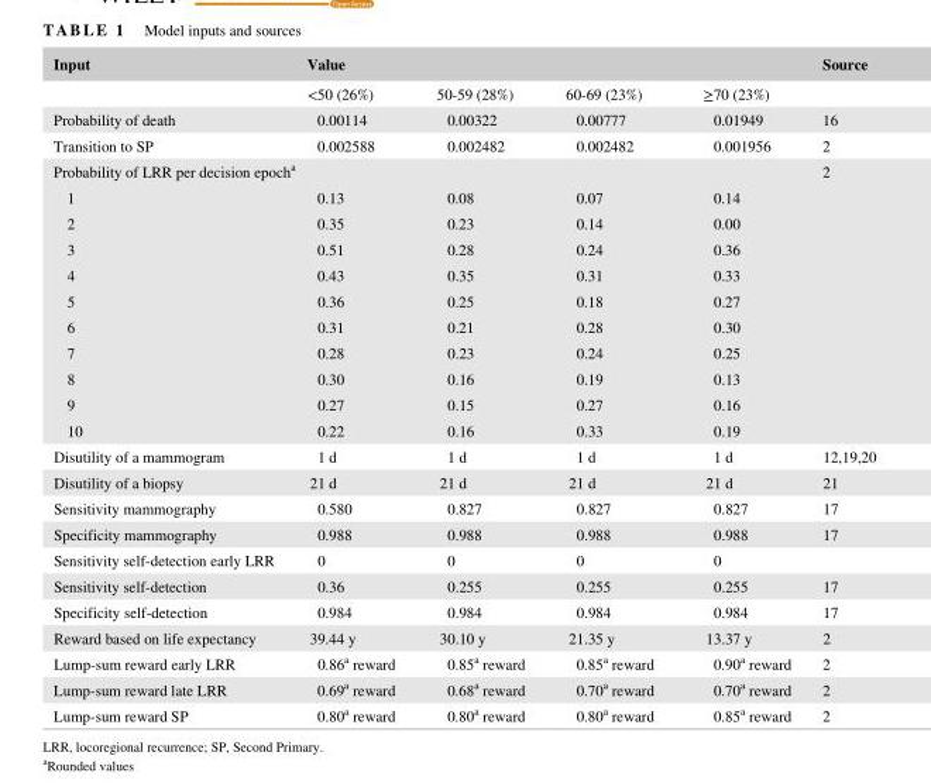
<table><thead><tr><td rowspan="2">Input</td><td colspan="4">Value</td><td rowspan="2">Source</td></tr><tr><td>&lt;50 (26%)</td><td>50- 59 (28%)</td><td>60- 69 (23%)</td><td>≥70 (23%)</td></tr></thead><tbody><tr><td>Probability of death</td><td>0.00114</td><td>0.00322</td><td>0.00777</td><td>0.01949</td><td>16</td></tr><tr><td>Transition to SP</td><td>0.002588</td><td>0.002482</td><td>0.002482</td><td>0.001956</td><td>2</td></tr><tr><td colspan="5">Probability of LRR per decision epoch<sup>a</sup></td><td rowspan="11">2</td></tr><tr><td>1</td><td>0.13</td><td>0.08</td><td>0.07</td><td>0.14</td></tr><tr><td>2</td><td>0.35</td><td>0.23</td><td>0.14</td><td>0.00</td></tr><tr><td>3</td><td>0.51</td><td>0.28</td><td>0.24</td><td>0.36</td></tr><tr><td>4</td><td>0.43</td><td>0.35</td><td>0.31</td><td>0.33</td></tr><tr><td>5</td><td>0.36</td><td>0.25</td><td>0.18</td><td>0.27</td></tr><tr><td>6</td><td>0.31</td><td>0.21</td><td>0.28</td><td>0.30</td></tr><tr><td>7</td><td>0.28</td><td>0.23</td><td>0.24</td><td>0.25</td></tr><tr><td>8</td><td>0.30</td><td>0.16</td><td>0.19</td><td>0.13</td></tr><tr><td>9</td><td>0.27</td><td>0.15</td><td>0.27</td><td>0.16</td></tr><tr><td>10</td><td>0.22</td><td>0.16</td><td>0.33</td><td>0.19</td></tr><tr><td>Disutility of a mammogram</td><td>1 d</td><td>1 d</td><td>1 d</td><td>1 d</td><td>12,19,20</td></tr><tr><td>Disutility of a biopsy</td><td>21 d</td><td>21 d</td><td>21 d</td><td>21 d</td><td>21</td></tr><tr><td>Sensitivity mammography</td><td>0.580</td><td>0.827</td><td>0.827</td><td>0.827</td><td>17</td></tr><tr><td>Specificity mammography</td><td>0.988</td><td>0.988</td><td>0.988</td><td>0.988</td><td>17</td></tr><tr><td>Sensitivity self- detection early LRR</td><td>0</td><td>0</td><td>0</td><td>0</td><td></td></tr><tr><td>Sensitivity self- detection</td><td>0.36</td><td>0.255</td><td>0.255</td><td>0.255</td><td>17</td></tr><tr><td>Specificity self- detection</td><td>0.984</td><td>0.984</td><td>0.984</td><td>0.984</td><td>17</td></tr><tr><td>Reward based on life expectancy</td><td>39.44 y</td><td>30.10 y</td><td>21.35 y</td><td>13.37 y</td><td>2</td></tr><tr><td>Lump- sum reward early LRR</td><td>0.86<sup>a</sup> reward</td><td>0.85<sup>a</sup> reward</td><td>0.85<sup>a</sup> reward</td><td>0.90<sup>a</sup> reward</td><td>2</td></tr><tr><td>Lump- sum reward late LRR</td><td>0.69<sup>a</sup> reward</td><td>0.68<sup>a</sup> reward</td><td>0.70<sup>a</sup> reward</td><td>0.70<sup>a</sup> reward</td><td>2</td></tr><tr><td>Lump- sum reward SP</td><td>0.80<sup>a</sup> reward</td><td>0.80<sup>a</sup> reward</td><td>0.80<sup>a</sup> reward</td><td>0.85<sup>a</sup> reward</td><td>2</td></tr></tbody></table>